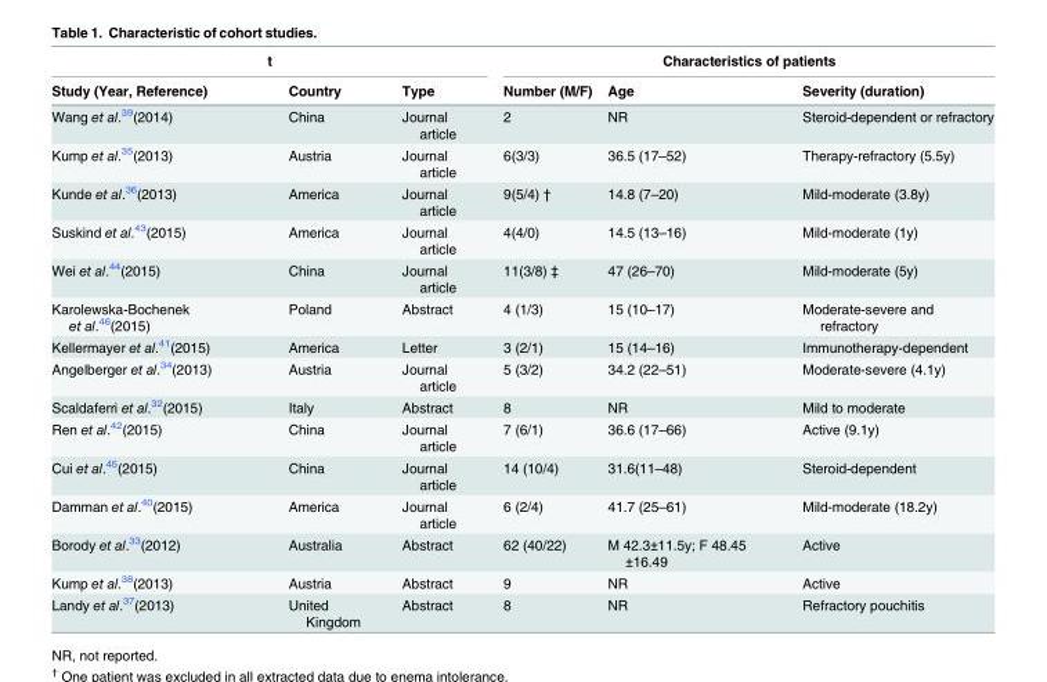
<table><thead><tr><td colspan="3">t</td><td colspan="3">Characteristics of patients</td></tr><tr><td>Study (Year, Reference)</td><td>Country</td><td>Type</td><td>Number (M/F)</td><td>Age</td><td>Severity (duration)</td></tr></thead><tbody><tr><td>Wang et al.<sup>39</sup>(2014)</td><td>China</td><td>Journal article</td><td>2</td><td>NR</td><td>Steroid-dependent or refractory</td></tr><tr><td>Kump et al.<sup>35</sup>(2013)</td><td>Austria</td><td>Journal article</td><td>6(3/3)</td><td>36.5 (17–52)</td><td>Therapy-refractory (5.5y)</td></tr><tr><td>Kunde et al.<sup>36</sup>(2013)</td><td>America</td><td>Journal article</td><td>9(5/4) †</td><td>14.8 (7–20)</td><td>Mild-moderate (3.8y)</td></tr><tr><td>Suskind et al.<sup>43</sup>(2015)</td><td>America</td><td>Journal article</td><td>4(4/0)</td><td>14.5 (13–16)</td><td>Mild-moderate (1y)</td></tr><tr><td>Wei et al.<sup>44</sup>(2015)</td><td>China</td><td>Journal article</td><td>11(3/8) ‡</td><td>47 (26–70)</td><td>Mild-moderate (5y)</td></tr><tr><td>Karolewska-Bochenek et al.<sup>46</sup>(2015)</td><td>Poland</td><td>Abstract</td><td>4 (1/3)</td><td>15 (10–17)</td><td>Moderate-severe and refractory</td></tr><tr><td>Kellermayer et al.<sup>41</sup>(2015)</td><td>America</td><td>Letter</td><td>3 (2/1)</td><td>15 (14–16)</td><td>Immunotherapy-dependent</td></tr><tr><td>Angelberger et al.<sup>34</sup>(2013)</td><td>Austria</td><td>Journal article</td><td>5 (3/2)</td><td>34.2 (22–51)</td><td>Moderate-severe (4.1y)</td></tr><tr><td>Scaldaferri et al.<sup>32</sup>(2015)</td><td>Italy</td><td>Abstract</td><td>8</td><td>NR</td><td>Mild to moderate</td></tr><tr><td>Ren et al.<sup>42</sup>(2015)</td><td>China</td><td>Journal article</td><td>7 (6/1)</td><td>36.6 (17–66)</td><td>Active (9.1y)</td></tr><tr><td>Cui et al.<sup>45</sup>(2015)</td><td>China</td><td>Journal article</td><td>14 (10/4)</td><td>31.6(11–48)</td><td>Steroid-dependent</td></tr><tr><td>Damman et al.<sup>40</sup>(2015)</td><td>America</td><td>Journal article</td><td>6 (2/4)</td><td>41.7 (25–61)</td><td>Mild-moderate (18.2y)</td></tr><tr><td>Borody et al.<sup>33</sup>(2012)</td><td>Australia</td><td>Abstract</td><td>62 (40/22)</td><td>M 42.3±11.5y; F 48.45 ±16.49</td><td>Active</td></tr><tr><td>Kump et al.<sup>38</sup>(2013)</td><td>Austria</td><td>Abstract</td><td>9</td><td>NR</td><td>Active</td></tr><tr><td>Landy et al.<sup>37</sup>(2013)</td><td>United Kingdom</td><td>Abstract</td><td>8</td><td>NR</td><td>Refractory pouchitis</td></tr></tbody></table>